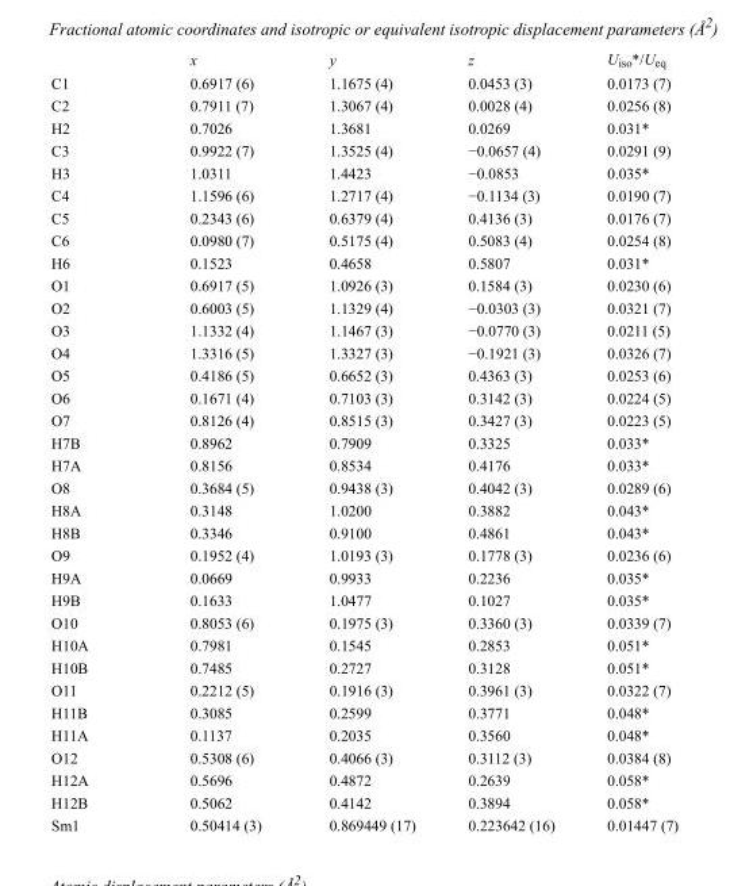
<table><thead><tr><td></td><td>x</td><td>y</td><td>z</td><td>U<sub>iso</sub>*/U<sub>eq</sub></td></tr></thead><tbody><tr><td>C1</td><td>0.6917 (6)</td><td>1.1675 (4)</td><td>0.0453 (3)</td><td>0.0173 (7)</td></tr><tr><td>C2</td><td>0.7911 (7)</td><td>1.3067 (4)</td><td>0.0028 (4)</td><td>0.0256 (8)</td></tr><tr><td>H2</td><td>0.7026</td><td>1.3681</td><td>0.0269</td><td>0.031*</td></tr><tr><td>C3</td><td>0.9922 (7)</td><td>1.3525 (4)</td><td>−0.0657 (4)</td><td>0.0291 (9)</td></tr><tr><td>H3</td><td>1.0311</td><td>1.4423</td><td>−0.0853</td><td>0.035*</td></tr><tr><td>C4</td><td>1.1596 (6)</td><td>1.2717 (4)</td><td>−0.1134 (3)</td><td>0.0190 (7)</td></tr><tr><td>C5</td><td>0.2343 (6)</td><td>0.6379 (4)</td><td>0.4136 (3)</td><td>0.0176 (7)</td></tr><tr><td>C6</td><td>0.0980 (7)</td><td>0.5175 (4)</td><td>0.5083 (4)</td><td>0.0254 (8)</td></tr><tr><td>H6</td><td>0.1523</td><td>0.4658</td><td>0.5807</td><td>0.031*</td></tr><tr><td>O1</td><td>0.6917 (5)</td><td>1.0926 (3)</td><td>0.1584 (3)</td><td>0.0230 (6)</td></tr><tr><td>O2</td><td>0.6003 (5)</td><td>1.1329 (4)</td><td>−0.0303 (3)</td><td>0.0321 (7)</td></tr><tr><td>O3</td><td>1.1332 (4)</td><td>1.1467 (3)</td><td>−0.0770 (3)</td><td>0.0211 (5)</td></tr><tr><td>O4</td><td>1.3316 (5)</td><td>1.3327 (3)</td><td>−0.1921 (3)</td><td>0.0326 (7)</td></tr><tr><td>O5</td><td>0.4186 (5)</td><td>0.6652 (3)</td><td>0.4363 (3)</td><td>0.0253 (6)</td></tr><tr><td>O6</td><td>0.1671 (4)</td><td>0.7103 (3)</td><td>0.3142 (3)</td><td>0.0224 (5)</td></tr><tr><td>O7</td><td>0.8126 (4)</td><td>0.8515 (3)</td><td>0.3427 (3)</td><td>0.0223 (5)</td></tr><tr><td>H7B</td><td>0.8962</td><td>0.7909</td><td>0.3325</td><td>0.033*</td></tr><tr><td>H7A</td><td>0.8156</td><td>0.8534</td><td>0.4176</td><td>0.033*</td></tr><tr><td>O8</td><td>0.3684 (5)</td><td>0.9438 (3)</td><td>0.4042 (3)</td><td>0.0289 (6)</td></tr><tr><td>H8A</td><td>0.3148</td><td>1.0200</td><td>0.3882</td><td>0.043*</td></tr><tr><td>H8B</td><td>0.3346</td><td>0.9100</td><td>0.4861</td><td>0.043*</td></tr><tr><td>O9</td><td>0.1952 (4)</td><td>1.0193 (3)</td><td>0.1778 (3)</td><td>0.0236 (6)</td></tr><tr><td>H9A</td><td>0.0669</td><td>0.9933</td><td>0.2236</td><td>0.035*</td></tr><tr><td>H9B</td><td>0.1633</td><td>1.0477</td><td>0.1027</td><td>0.035*</td></tr><tr><td>O10</td><td>0.8053 (6)</td><td>0.1975 (3)</td><td>0.3360 (3)</td><td>0.0339 (7)</td></tr><tr><td>H10A</td><td>0.7981</td><td>0.1545</td><td>0.2853</td><td>0.051*</td></tr><tr><td>H10B</td><td>0.7485</td><td>0.2727</td><td>0.3128</td><td>0.051*</td></tr><tr><td>O11</td><td>0.2212 (5)</td><td>0.1916 (3)</td><td>0.3961 (3)</td><td>0.0322 (7)</td></tr><tr><td>H11B</td><td>0.3085</td><td>0.2599</td><td>0.3771</td><td>0.048*</td></tr><tr><td>H11A</td><td>0.1137</td><td>0.2035</td><td>0.3560</td><td>0.048*</td></tr><tr><td>O12</td><td>0.5308 (6)</td><td>0.4066 (3)</td><td>0.3112 (3)</td><td>0.0384 (8)</td></tr><tr><td>H12A</td><td>0.5696</td><td>0.4872</td><td>0.2639</td><td>0.058*</td></tr><tr><td>H12B</td><td>0.5062</td><td>0.4142</td><td>0.3894</td><td>0.058*</td></tr><tr><td>Sm1</td><td>0.50414 (3)</td><td>0.869449 (17)</td><td>0.223642 (16)</td><td>0.01447 (7)</td></tr></tbody></table>